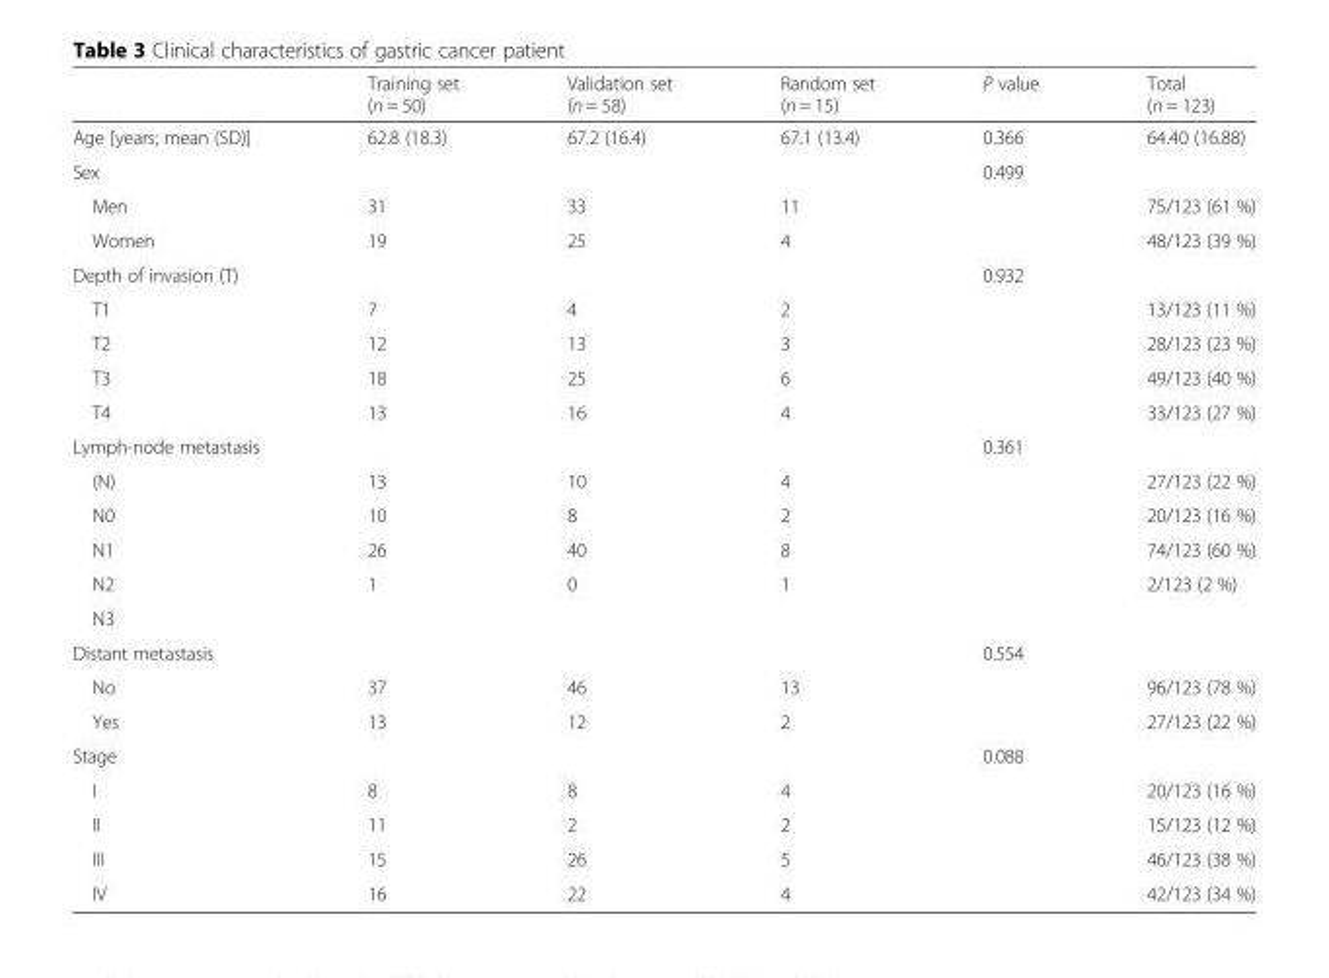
<table><thead><tr><td></td><td>Training set (n = 50)</td><td>Validation set (n = 58)</td><td>Random set (n = 15)</td><td>P value</td><td>Total (n = 123)</td></tr></thead><tbody><tr><td>Age [years; mean (SD)]</td><td>62.8 (18.3)</td><td>67.2 (16.4)</td><td>67.1 (13.4)</td><td>0.366</td><td>64.40 (16.88)</td></tr><tr><td>Sex</td><td></td><td></td><td></td><td>0.499</td><td></td></tr><tr><td>Men</td><td>31</td><td>33</td><td>11</td><td></td><td>75/123 (61 %)</td></tr><tr><td>Women</td><td>19</td><td>25</td><td>4</td><td></td><td>48/123 (39 %)</td></tr><tr><td>Depth of invasion (T)</td><td></td><td></td><td></td><td>0.932</td><td></td></tr><tr><td>T1</td><td>7</td><td>4</td><td>2</td><td></td><td>13/123 (11 %)</td></tr><tr><td>T2</td><td>12</td><td>13</td><td>3</td><td></td><td>28/123 (23 %)</td></tr><tr><td>T3</td><td>18</td><td>25</td><td>6</td><td></td><td>49/123 (40 %)</td></tr><tr><td>T4</td><td>13</td><td>16</td><td>4</td><td></td><td>33/123 (27 %)</td></tr><tr><td>Lymph-node metastasis</td><td></td><td></td><td></td><td>0.361</td><td></td></tr><tr><td>(N)</td><td>13</td><td>10</td><td>4</td><td></td><td>27/123 (22 %)</td></tr><tr><td>N0</td><td>10</td><td>8</td><td>2</td><td></td><td>20/123 (16 %)</td></tr><tr><td>N1</td><td>26</td><td>40</td><td>8</td><td></td><td>74/123 (60 %)</td></tr><tr><td>N2</td><td>1</td><td>0</td><td>1</td><td></td><td>2/123 (2 %)</td></tr><tr><td colspan="6">N3</td></tr><tr><td>Distant metastasis</td><td></td><td></td><td></td><td>0.554</td><td></td></tr><tr><td>No</td><td>37</td><td>46</td><td>13</td><td></td><td>96/123 (78 %)</td></tr><tr><td>Yes</td><td>13</td><td>12</td><td>2</td><td></td><td>27/123 (22 %)</td></tr><tr><td>Stage</td><td></td><td></td><td></td><td>0.088</td><td></td></tr><tr><td>I</td><td>8</td><td>8</td><td>4</td><td></td><td>20/123 (16 %)</td></tr><tr><td>II</td><td>11</td><td>2</td><td>2</td><td></td><td>15/123 (12 %)</td></tr><tr><td>III</td><td>15</td><td>26</td><td>5</td><td></td><td>46/123 (38 %)</td></tr><tr><td>IV</td><td>16</td><td>22</td><td>4</td><td></td><td>42/123 (34 %)</td></tr></tbody></table>